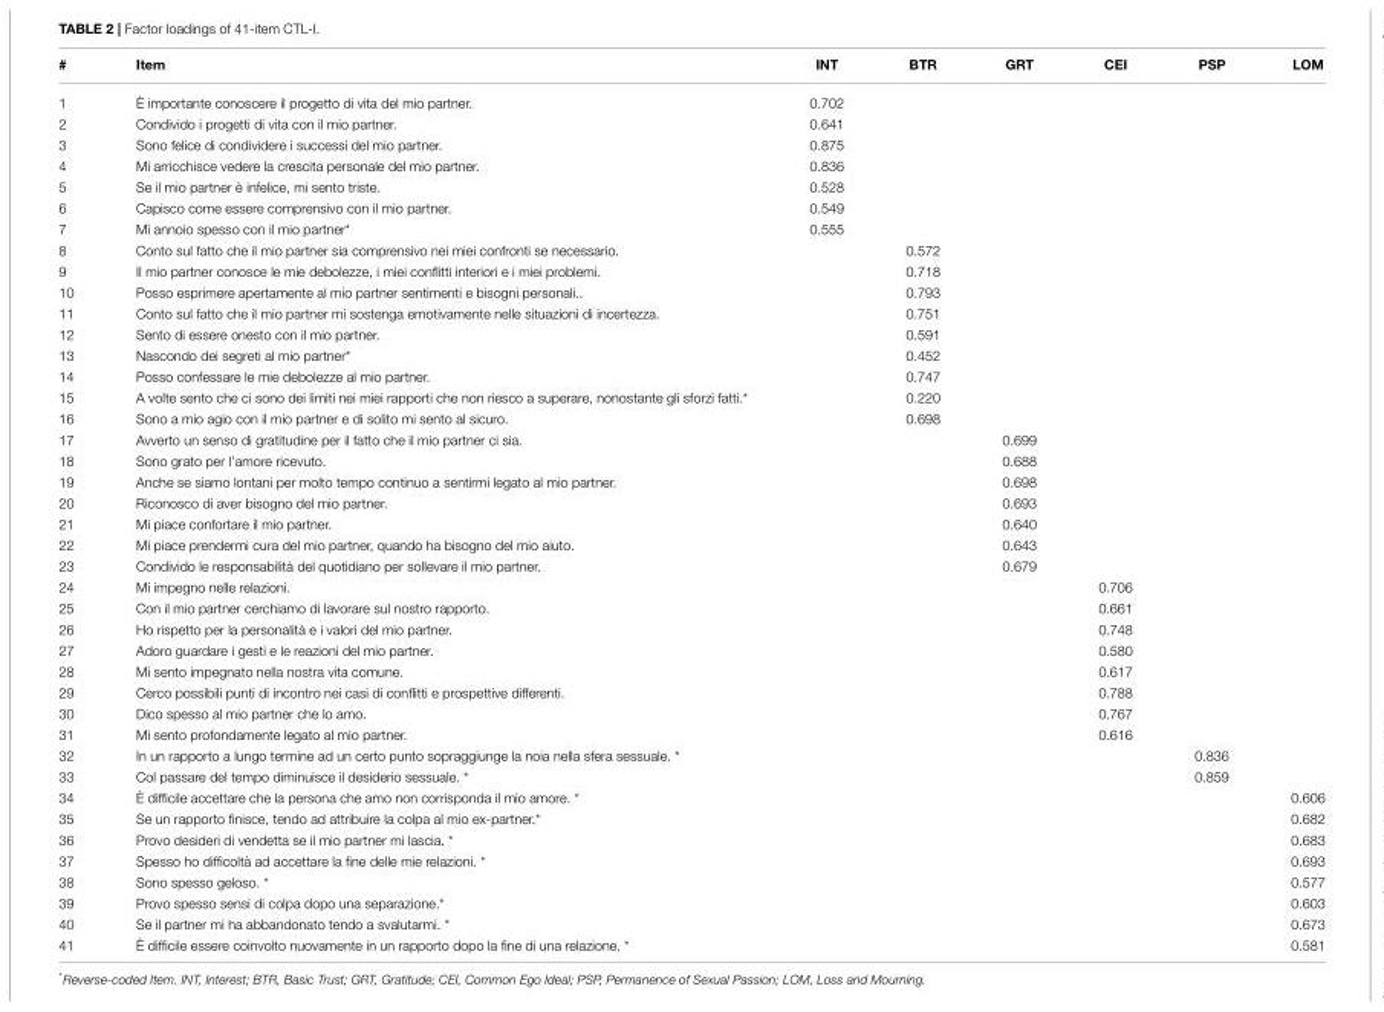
<table><thead><tr><td>#</td><td>Item</td><td>INT</td><td>BTR</td><td>GRT</td><td>CEI</td><td>PSP</td><td>LOM</td></tr></thead><tbody><tr><td>1</td><td>È importante conoscere il progetto di vita del mio partner.</td><td>0.702</td><td></td><td></td><td></td><td></td><td></td></tr><tr><td>2</td><td>Condivido i progetti di vita con il mio partner.</td><td>0.641</td><td></td><td></td><td></td><td></td><td></td></tr><tr><td>3</td><td>Sono felice di condividere i successi del mio partner.</td><td>0.875</td><td></td><td></td><td></td><td></td><td></td></tr><tr><td>4</td><td>Mi arricchisce vedere la crescita personale del mio partner.</td><td>0.836</td><td></td><td></td><td></td><td></td><td></td></tr><tr><td>5</td><td>Se il mio partner è infelice, mi sento triste.</td><td>0.528</td><td></td><td></td><td></td><td></td><td></td></tr><tr><td>6</td><td>Capisco come essere comprensivo con il mio partner.</td><td>0.549</td><td></td><td></td><td></td><td></td><td></td></tr><tr><td>7</td><td>Mi annoio spesso con il mio partner*</td><td>0.555</td><td></td><td></td><td></td><td></td><td></td></tr><tr><td>8</td><td>Conto sul fatto che il mio partner sia comprensivo nei miei confronti se necessario.</td><td></td><td>0.572</td><td></td><td></td><td></td><td></td></tr><tr><td>9</td><td>Il mio partner conosce le mie debolezze, i miei conflitti interiori e i miei problemi.</td><td></td><td>0.718</td><td></td><td></td><td></td><td></td></tr><tr><td>10</td><td>Posso esprimere apertamente al mio partner sentimenti e bisogni personali..</td><td></td><td>0.793</td><td></td><td></td><td></td><td></td></tr><tr><td>11</td><td>Conto sul fatto che il mio partner mi sostenga emotivamente nelle situazioni di incertezza.</td><td></td><td>0.751</td><td></td><td></td><td></td><td></td></tr><tr><td>12</td><td>Sento di essere onesto con il mio partner.</td><td></td><td>0.591</td><td></td><td></td><td></td><td></td></tr><tr><td>13</td><td>Nascondo dei segreti al mio partner*</td><td></td><td>0.452</td><td></td><td></td><td></td><td></td></tr><tr><td>14</td><td>Posso confessare le mie debolezze al mio partner.</td><td></td><td>0.747</td><td></td><td></td><td></td><td></td></tr><tr><td>15</td><td>A volte sento che ci sono dei limiti nei miei rapporti che non riesco a superare, nonostante gli sforzi fatti.*</td><td></td><td>0.220</td><td></td><td></td><td></td><td></td></tr><tr><td>16</td><td>Sono a mio agio con il mio partner e di solito mi sento al sicuro.</td><td></td><td>0.698</td><td></td><td></td><td></td><td></td></tr><tr><td>17</td><td>Avverto un senso di gratitudine per il fatto che il mio partner ci sia.</td><td></td><td></td><td>0.699</td><td></td><td></td><td></td></tr><tr><td>18</td><td>Sono grato per l’amore ricevuto.</td><td></td><td></td><td>0.688</td><td></td><td></td><td></td></tr><tr><td>19</td><td>Anche se siamo lontani per molto tempo continuo a sentirmi legato al mio partner.</td><td></td><td></td><td>0.698</td><td></td><td></td><td></td></tr><tr><td>20</td><td>Riconosco di aver bisogno del mio partner.</td><td></td><td></td><td>0.693</td><td></td><td></td><td></td></tr><tr><td>21</td><td>Mi piace confortare il mio partner.</td><td></td><td></td><td>0.640</td><td></td><td></td><td></td></tr><tr><td>22</td><td>Mi piace prendermi cura del mio partner, quando ha bisogno del mio aiuto.</td><td></td><td></td><td>0.643</td><td></td><td></td><td></td></tr><tr><td>23</td><td>Condivido le responsabilità del quotidiano per sollevare il mio partner.</td><td></td><td></td><td>0.679</td><td></td><td></td><td></td></tr><tr><td>24</td><td>Mi impegno nelle relazioni.</td><td></td><td></td><td></td><td>0.706</td><td></td><td></td></tr><tr><td>25</td><td>Con il mio partner cerchiamo di lavorare sul nostro rapporto.</td><td></td><td></td><td></td><td>0.661</td><td></td><td></td></tr><tr><td>26</td><td>Ho rispetto per la personalità e i valori del mio partner.</td><td></td><td></td><td></td><td>0.748</td><td></td><td></td></tr><tr><td>27</td><td>Adoro guardare i gesti e le reazioni del mio partner.</td><td></td><td></td><td></td><td>0.580</td><td></td><td></td></tr><tr><td>28</td><td>Mi sento impegnato nella nostra vita comune.</td><td></td><td></td><td></td><td>0.617</td><td></td><td></td></tr><tr><td>29</td><td>Cerco possibili punti di incontro nei casi di conflitti e prospettive differenti.</td><td></td><td></td><td></td><td>0.788</td><td></td><td></td></tr><tr><td>30</td><td>Dico spesso al mio partner che lo amo.</td><td></td><td></td><td></td><td>0.767</td><td></td><td></td></tr><tr><td>31</td><td>Mi sento profondamente legato al mio partner.</td><td></td><td></td><td></td><td>0.616</td><td></td><td></td></tr><tr><td>32</td><td>In un rapporto a lungo termine ad un certo punto sopraggiunge la noia nella sfera sessuale. *</td><td></td><td></td><td></td><td></td><td>0.836</td><td></td></tr><tr><td>33</td><td>Col passare del tempo diminuisce il desiderio sessuale. *</td><td></td><td></td><td></td><td></td><td>0.859</td><td></td></tr><tr><td>34</td><td>È difficile accettare che la persona che amo non corrisponda il mio amore. *</td><td></td><td></td><td></td><td></td><td></td><td>0.606</td></tr><tr><td>35</td><td>Se un rapporto finisce, tendo ad attribuire la colpa al mio ex-partner.*</td><td></td><td></td><td></td><td></td><td></td><td>0.682</td></tr><tr><td>36</td><td>Provo desideri di vendetta se il mio partner mi lascia. *</td><td></td><td></td><td></td><td></td><td></td><td>0.683</td></tr><tr><td>37</td><td>Spesso ho difficoltà ad accettare la fine delle mie relazioni. *</td><td></td><td></td><td></td><td></td><td></td><td>0.693</td></tr><tr><td>38</td><td>Sono spesso geloso. *</td><td></td><td></td><td></td><td></td><td></td><td>0.577</td></tr><tr><td>39</td><td>Provo spesso sensi di colpa dopo una separazione.*</td><td></td><td></td><td></td><td></td><td></td><td>0.603</td></tr><tr><td>40</td><td>Se il partner mi ha abbandonato tendo a svalutarmi. *</td><td></td><td></td><td></td><td></td><td></td><td>0.673</td></tr><tr><td>41</td><td>È difficile essere coinvolto nuovamente in un rapporto dopo la fine di una relazione. *</td><td></td><td></td><td></td><td></td><td></td><td>0.581</td></tr></tbody></table>